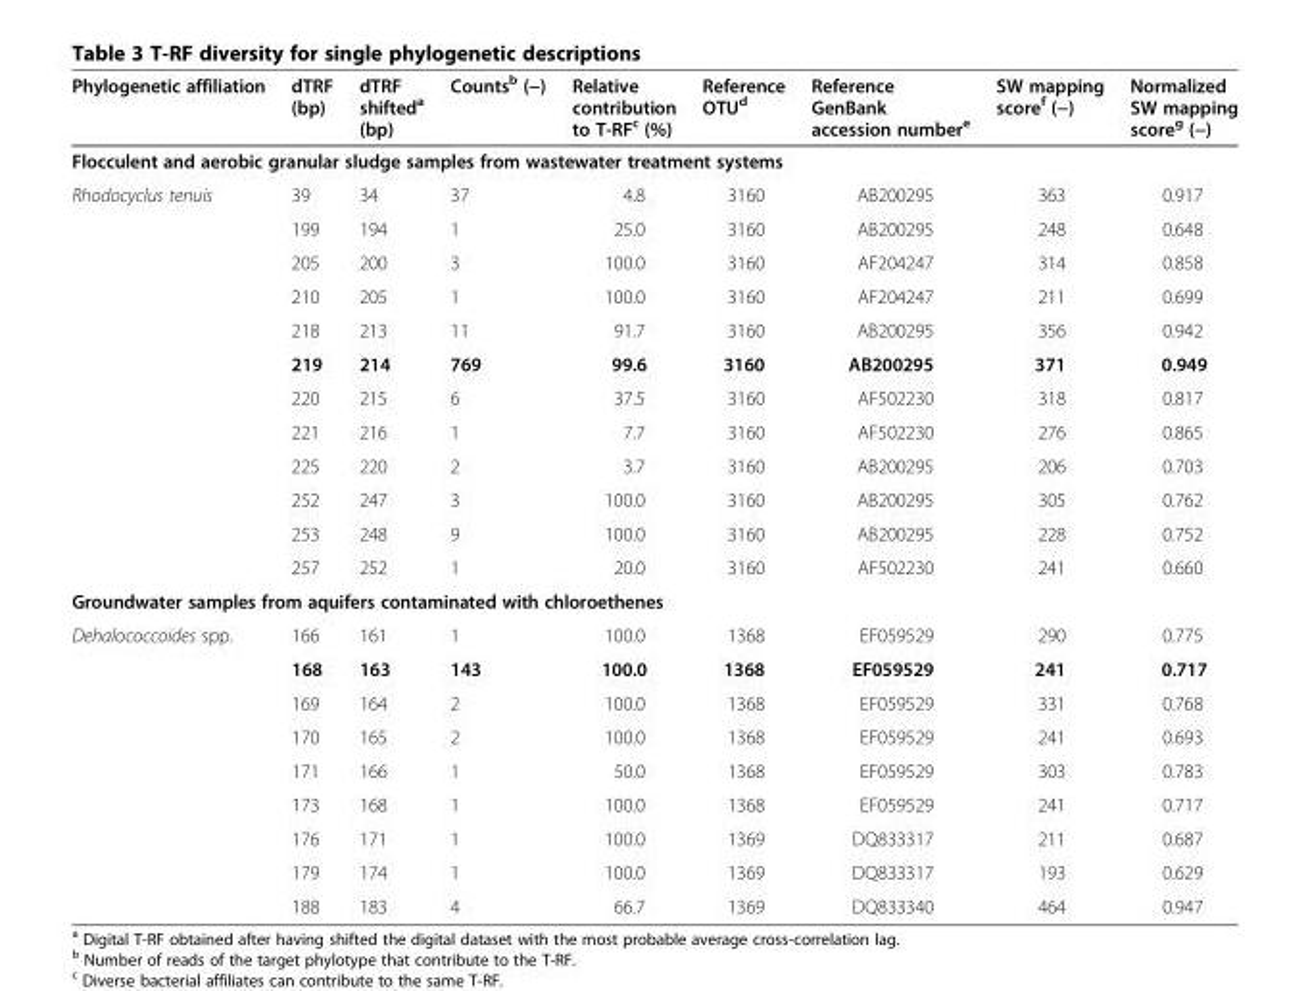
<table><thead><tr><td>Phylogenetic affiliation</td><td>dTRF (bp)</td><td>dTRF shifted<sup>a</sup> (bp)</td><td>Counts<sup>b</sup> (−)</td><td>Relative contribution to T-RF<sup>c</sup> (%)</td><td>Reference OTU<sup>d</sup></td><td>Reference GenBank accession number<sup>e</sup></td><td>SW mapping score<sup>f</sup> (−)</td><td>Normalized SW mapping score<sup>g</sup> (−)</td></tr></thead><tbody><tr><td colspan="9">Flocculent and aerobic granular sludge samples from wastewater treatment systems</td></tr><tr><td rowspan="12">Rhodocyclus tenuis</td><td>39</td><td>34</td><td>37</td><td>4.8</td><td>3160</td><td>AB200295</td><td>363</td><td>0.917</td></tr><tr><td>199</td><td>194</td><td>1</td><td>25.0</td><td>3160</td><td>AB200295</td><td>248</td><td>0.648</td></tr><tr><td>205</td><td>200</td><td>3</td><td>100.0</td><td>3160</td><td>AF204247</td><td>314</td><td>0.858</td></tr><tr><td>210</td><td>205</td><td>1</td><td>100.0</td><td>3160</td><td>AF204247</td><td>211</td><td>0.699</td></tr><tr><td>218</td><td>213</td><td>11</td><td>91.7</td><td>3160</td><td>AB200295</td><td>356</td><td>0.942</td></tr><tr><td>219</td><td>214</td><td>769</td><td>99.6</td><td>3160</td><td>AB200295</td><td>371</td><td>0.949</td></tr><tr><td>220</td><td>215</td><td>6</td><td>37.5</td><td>3160</td><td>AF502230</td><td>318</td><td>0.817</td></tr><tr><td>221</td><td>216</td><td>1</td><td>7.7</td><td>3160</td><td>AF502230</td><td>276</td><td>0.865</td></tr><tr><td>225</td><td>220</td><td>2</td><td>3.7</td><td>3160</td><td>AB200295</td><td>206</td><td>0.703</td></tr><tr><td>252</td><td>247</td><td>3</td><td>100.0</td><td>3160</td><td>AB200295</td><td>305</td><td>0.762</td></tr><tr><td>253</td><td>248</td><td>9</td><td>100.0</td><td>3160</td><td>AB200295</td><td>228</td><td>0.752</td></tr><tr><td>257</td><td>252</td><td>1</td><td>20.0</td><td>3160</td><td>AF502230</td><td>241</td><td>0.660</td></tr><tr><td colspan="9">Groundwater samples from aquifers contaminated with chloroethenes</td></tr><tr><td rowspan="9">Dehalococcoides spp.</td><td>166</td><td>161</td><td>1</td><td>100.0</td><td>1368</td><td>EF059529</td><td>290</td><td>0.775</td></tr><tr><td>168</td><td>163</td><td>143</td><td>100.0</td><td>1368</td><td>EF059529</td><td>241</td><td>0.717</td></tr><tr><td>169</td><td>164</td><td>2</td><td>100.0</td><td>1368</td><td>EF059529</td><td>331</td><td>0.768</td></tr><tr><td>170</td><td>165</td><td>2</td><td>100.0</td><td>1368</td><td>EF059529</td><td>241</td><td>0.693</td></tr><tr><td>171</td><td>166</td><td>1</td><td>50.0</td><td>1368</td><td>EF059529</td><td>303</td><td>0.783</td></tr><tr><td>173</td><td>168</td><td>1</td><td>100.0</td><td>1368</td><td>EF059529</td><td>241</td><td>0.717</td></tr><tr><td>176</td><td>171</td><td>1</td><td>100.0</td><td>1369</td><td>DQ833317</td><td>211</td><td>0.687</td></tr><tr><td>179</td><td>174</td><td>1</td><td>100.0</td><td>1369</td><td>DQ833317</td><td>193</td><td>0.629</td></tr><tr><td>188</td><td>183</td><td>4</td><td>66.7</td><td>1369</td><td>DQ833340</td><td>464</td><td>0.947</td></tr></tbody></table>